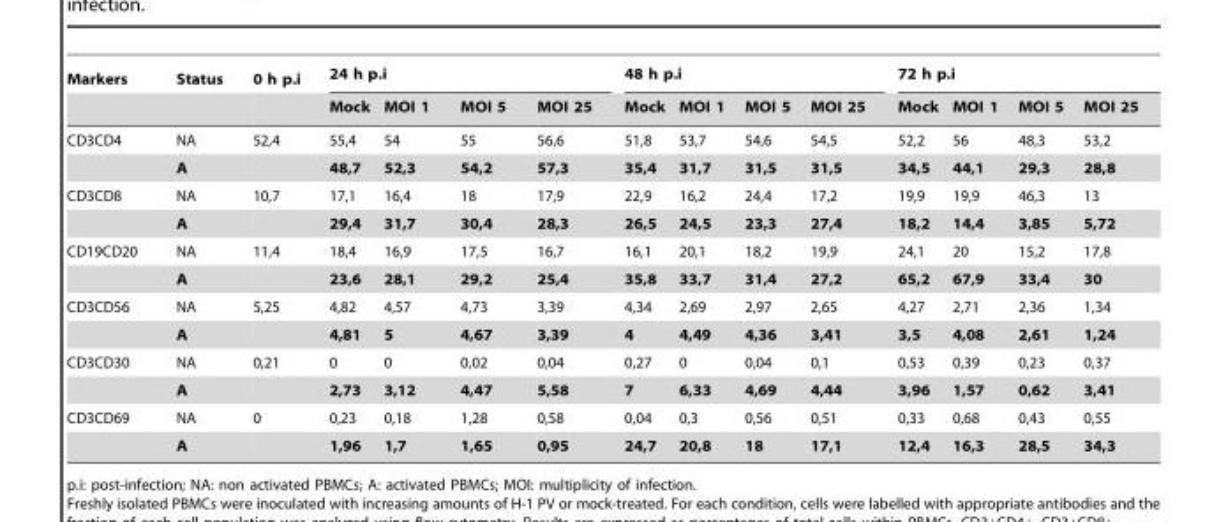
<table><thead><tr><td rowspan="2">Markers</td><td rowspan="2">Status</td><td rowspan="2">0 h p.i</td><td colspan="4">24 h p.i</td><td colspan="4">48 h p.i</td><td colspan="4">72 h p.i</td></tr><tr><td>Mock</td><td>MOI 1</td><td>MOI 5</td><td>MOI 25</td><td>Mock</td><td>MOI 1</td><td>MOI 5</td><td>MOI 25</td><td>Mock</td><td>MOI 1</td><td>MOI 5</td><td>MOI 25</td></tr></thead><tbody><tr><td rowspan="2">CD3CD4</td><td>NA</td><td>52,4</td><td>55,4</td><td>54</td><td>55</td><td>56,6</td><td>51,8</td><td>53,7</td><td>54,6</td><td>54,5</td><td>52,2</td><td>56</td><td>48,3</td><td>53,2</td></tr><tr><td>A</td><td></td><td>48,7</td><td>52,3</td><td>54,2</td><td>57,3</td><td>35,4</td><td>31,7</td><td>31,5</td><td>31,5</td><td>34,5</td><td>44,1</td><td>29,3</td><td>28,8</td></tr><tr><td rowspan="2">CD3CD8</td><td>NA</td><td>10,7</td><td>17,1</td><td>16,4</td><td>18</td><td>17,9</td><td>22,9</td><td>16,2</td><td>24,4</td><td>17,2</td><td>19,9</td><td>19,9</td><td>46,3</td><td>13</td></tr><tr><td>A</td><td></td><td>29,4</td><td>31,7</td><td>30,4</td><td>28,3</td><td>26,5</td><td>24,5</td><td>23,3</td><td>27,4</td><td>18,2</td><td>14,4</td><td>3,85</td><td>5,72</td></tr><tr><td rowspan="2">CD19CD20</td><td>NA</td><td>11,4</td><td>18,4</td><td>16,9</td><td>17,5</td><td>16,7</td><td>16,1</td><td>20,1</td><td>18,2</td><td>19,9</td><td>24,1</td><td>20</td><td>15,2</td><td>17,8</td></tr><tr><td>A</td><td></td><td>23,6</td><td>28,1</td><td>29,2</td><td>25,4</td><td>35,8</td><td>33,7</td><td>31,4</td><td>27,2</td><td>65,2</td><td>67,9</td><td>33,4</td><td>30</td></tr><tr><td rowspan="2">CD3CD56</td><td>NA</td><td>5,25</td><td>4,82</td><td>4,57</td><td>4,73</td><td>3,39</td><td>4,34</td><td>2,69</td><td>2,97</td><td>2,65</td><td>4,27</td><td>2,71</td><td>2,36</td><td>1,34</td></tr><tr><td>A</td><td></td><td>4,81</td><td>5</td><td>4,67</td><td>3,39</td><td>4</td><td>4,49</td><td>4,36</td><td>3,41</td><td>3,5</td><td>4,08</td><td>2,61</td><td>1,24</td></tr><tr><td rowspan="2">CD3CD30</td><td>NA</td><td>0,21</td><td>0</td><td>0</td><td>0,02</td><td>0,04</td><td>0,27</td><td>0</td><td>0,04</td><td>0,1</td><td>0,53</td><td>0,39</td><td>0,23</td><td>0,37</td></tr><tr><td>A</td><td></td><td>2,73</td><td>3,12</td><td>4,47</td><td>5,58</td><td>7</td><td>6,33</td><td>4,69</td><td>4,44</td><td>3,96</td><td>1,57</td><td>0,62</td><td>3,41</td></tr><tr><td rowspan="2">CD3CD69</td><td>NA</td><td>0</td><td>0,23</td><td>0,18</td><td>1,28</td><td>0,58</td><td>0,04</td><td>0,3</td><td>0,56</td><td>0,51</td><td>0,33</td><td>0,68</td><td>0,43</td><td>0,55</td></tr><tr><td>A</td><td></td><td>1,96</td><td>1,7</td><td>1,65</td><td>0,95</td><td>24,7</td><td>20,8</td><td>18</td><td>17,1</td><td>12,4</td><td>16,3</td><td>28,5</td><td>34,3</td></tr></tbody></table>